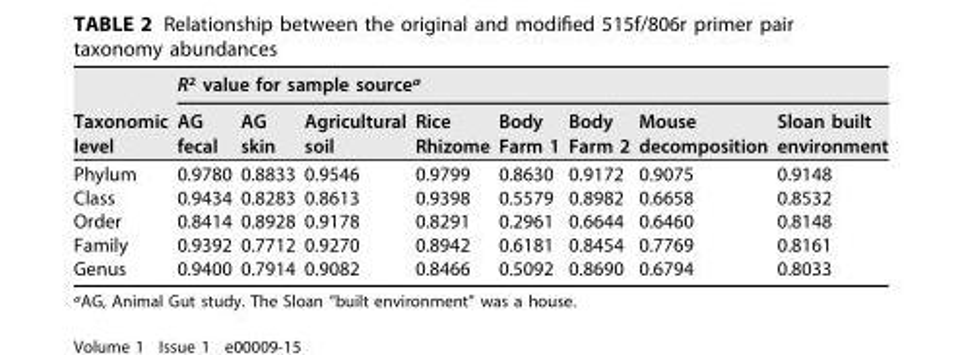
<table><thead><tr><td rowspan="2">Taxonomic level</td><td colspan="8">R<sup>2</sup> value for sample source<sup>a</sup></td></tr><tr><td>AG fecal</td><td>AG skin</td><td>Agricultural soil</td><td>Rice Rhizome</td><td>Body Farm 1</td><td>Body Farm 2</td><td>Mouse decomposition</td><td>Sloan built environment</td></tr></thead><tbody><tr><td>Phylum</td><td>0.9780</td><td>0.8833</td><td>0.9546</td><td>0.9799</td><td>0.8630</td><td>0.9172</td><td>0.9075</td><td>0.9148</td></tr><tr><td>Class</td><td>0.9434</td><td>0.8283</td><td>0.8613</td><td>0.9398</td><td>0.5579</td><td>0.8982</td><td>0.6658</td><td>0.8532</td></tr><tr><td>Order</td><td>0.8414</td><td>0.8928</td><td>0.9178</td><td>0.8291</td><td>0.2961</td><td>0.6644</td><td>0.6460</td><td>0.8148</td></tr><tr><td>Family</td><td>0.9392</td><td>0.7712</td><td>0.9270</td><td>0.8942</td><td>0.6181</td><td>0.8454</td><td>0.7769</td><td>0.8161</td></tr><tr><td>Genus</td><td>0.9400</td><td>0.7914</td><td>0.9082</td><td>0.8466</td><td>0.5092</td><td>0.8690</td><td>0.6794</td><td>0.8033</td></tr></tbody></table>